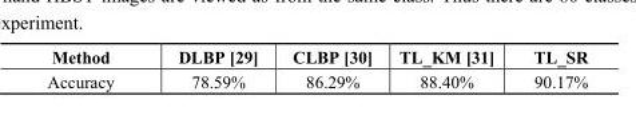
<table><thead><tr><td>Method</td><td>DLBP [29]</td><td>CLBP [30]</td><td>TL_KM [31]</td><td>TL_SR</td></tr></thead><tbody><tr><td>Accuracy</td><td>78.59%</td><td>86.29%</td><td>88.40%</td><td>90.17%</td></tr></tbody></table>